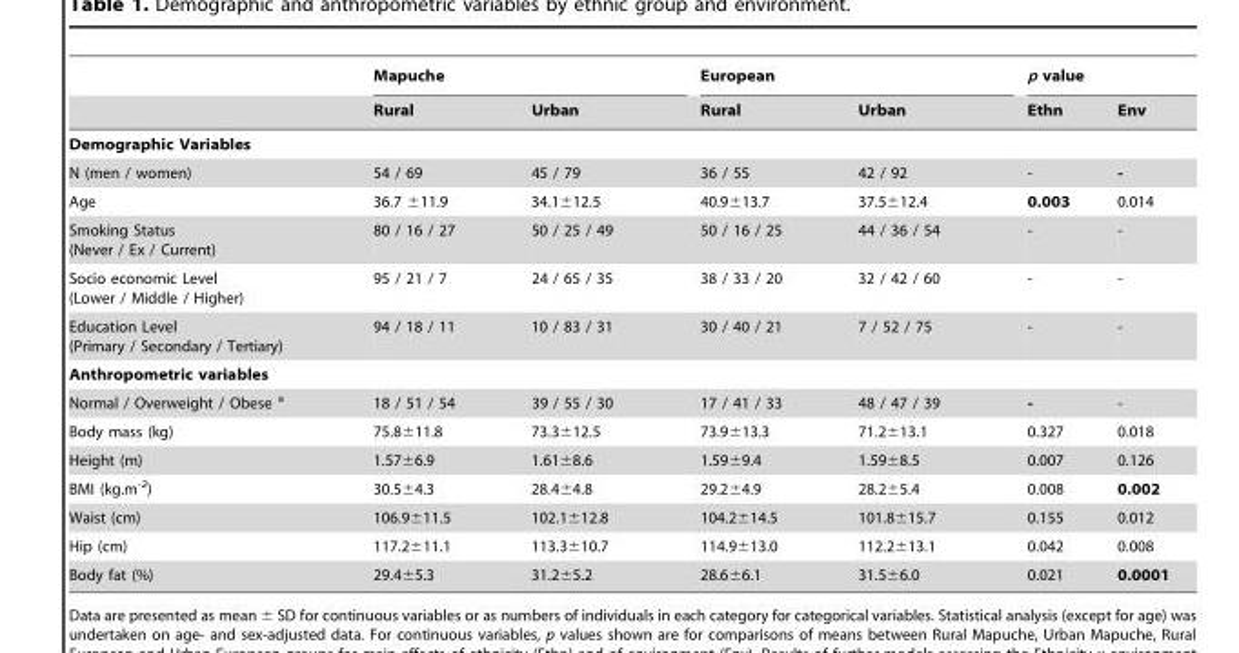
<table><thead><tr><td rowspan="2"></td><td colspan="2">Mapuche</td><td colspan="2">European</td><td colspan="2">p value</td></tr><tr><td>Rural</td><td>Urban</td><td>Rural</td><td>Urban</td><td>Ethn</td><td>Env</td></tr></thead><tbody><tr><td colspan="7">Demographic Variables</td></tr><tr><td>N (men / women)</td><td>54 / 69</td><td>45 / 79</td><td>36 / 55</td><td>42 / 92</td><td>-</td><td>-</td></tr><tr><td>Age</td><td>36.7 ±11.9</td><td>34.1±12.5</td><td>40.9±13.7</td><td>37.5±12.4</td><td>0.003</td><td>0.014</td></tr><tr><td>Smoking Status (Never / Ex / Current)</td><td>80 / 16 / 27</td><td>50 / 25 / 49</td><td>50 / 16 / 25</td><td>44 / 36 / 54</td><td>-</td><td>-</td></tr><tr><td>Socio economic Level (Lower / Middle / Higher)</td><td>95 / 21 / 7</td><td>24 / 65 / 35</td><td>38 / 33 / 20</td><td>32 / 42 / 60</td><td>-</td><td>-</td></tr><tr><td>Education Level (Primary / Secondary / Tertiary)</td><td>94 / 18 / 11</td><td>10 / 83 / 31</td><td>30 / 40 / 21</td><td>7 / 52 / 75</td><td>-</td><td>-</td></tr><tr><td colspan="7">Anthropometric variables</td></tr><tr><td>Normal / Overweight / Obese <sup>a</sup></td><td>18 / 51 / 54</td><td>39 / 55 / 30</td><td>17 / 41 / 33</td><td>48 / 47 / 39</td><td>-</td><td>-</td></tr><tr><td>Body mass (kg)</td><td>75.8±11.8</td><td>73.3±12.5</td><td>73.9±13.3</td><td>71.2±13.1</td><td>0.327</td><td>0.018</td></tr><tr><td>Height (m)</td><td>1.57±6.9</td><td>1.61±8.6</td><td>1.59±9.4</td><td>1.59±8.5</td><td>0.007</td><td>0.126</td></tr><tr><td>BMI (kg.m<sup>-2</sup>)</td><td>30.5±4.3</td><td>28.4±4.8</td><td>29.2±4.9</td><td>28.2±5.4</td><td>0.008</td><td>0.002</td></tr><tr><td>Waist (cm)</td><td>106.9±11.5</td><td>102.1±12.8</td><td>104.2±14.5</td><td>101.8±15.7</td><td>0.155</td><td>0.012</td></tr><tr><td>Hip (cm)</td><td>117.2±11.1</td><td>113.3±10.7</td><td>114.9±13.0</td><td>112.2±13.1</td><td>0.042</td><td>0.008</td></tr><tr><td>Body fat (%)</td><td>29.4±5.3</td><td>31.2±5.2</td><td>28.6±6.1</td><td>31.5±6.0</td><td>0.021</td><td>0.0001</td></tr></tbody></table>